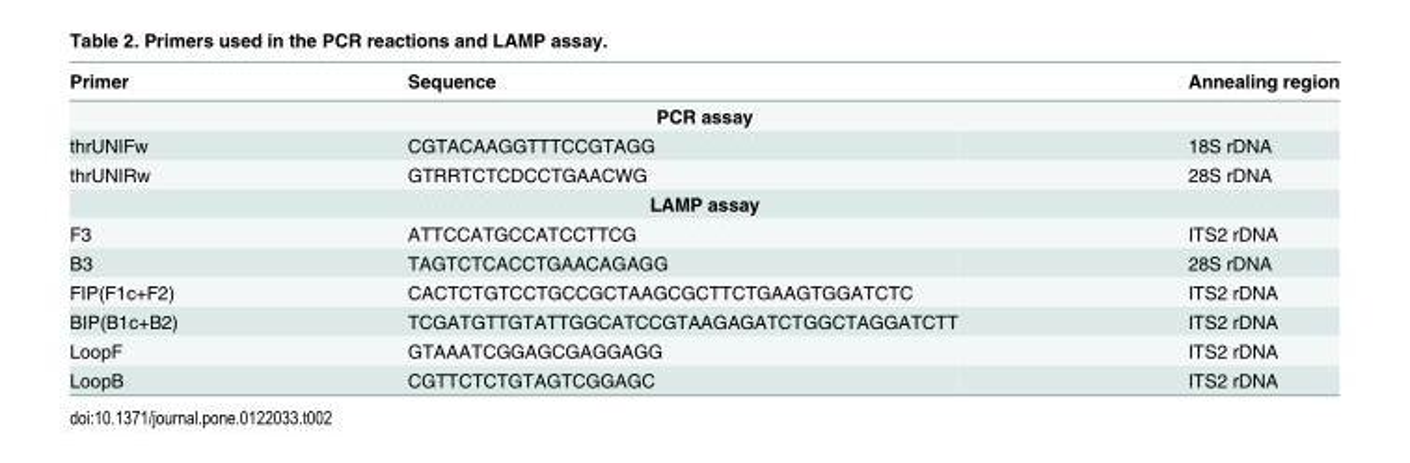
<table><thead><tr><td>Primer</td><td>Sequence</td><td>Annealing region</td></tr></thead><tbody><tr><td colspan="3">PCR assay</td></tr><tr><td>thrUNIFw</td><td>CGTACAAGGTTTCCGTAGG</td><td>18S rDNA</td></tr><tr><td>thrUNIRw</td><td>GTRRTCTCDCCTGAACWG</td><td>28S rDNA</td></tr><tr><td colspan="3">LAMP assay</td></tr><tr><td>F3</td><td>ATTCCATGCCATCCTTCG</td><td>ITS2 rDNA</td></tr><tr><td>B3</td><td>TAGTCTCACCTGAACAGAGG</td><td>28S rDNA</td></tr><tr><td>FIP(F1c+F2)</td><td>CACTCTGTCCTGCCGCTAAGCGCTTCTGAAGTGGATCTC</td><td>ITS2 rDNA</td></tr><tr><td>BIP(B1c+B2)</td><td>TCGATGTTGTATTGGCATCCGTAAGAGATCTGGCTAGGATCTT</td><td>ITS2 rDNA</td></tr><tr><td>LoopF</td><td>GTAAATCGGAGCGAGGAGG</td><td>ITS2 rDNA</td></tr><tr><td>LoopB</td><td>CGTTCTCTGTAGTCGGAGC</td><td>ITS2 rDNA</td></tr></tbody></table>